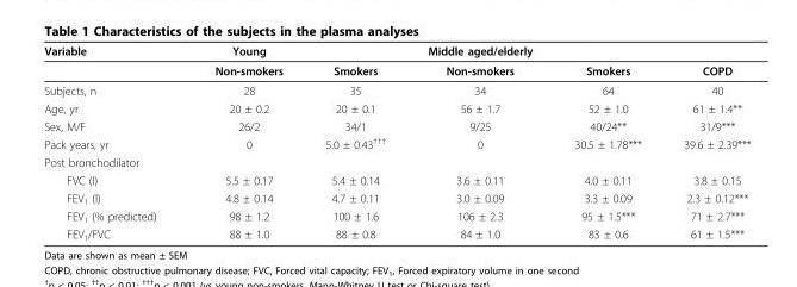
<table><thead><tr><td>Variable</td><td>Young</td><td></td><td>Middle aged/elderly</td><td></td><td></td></tr></thead><tbody><tr><td></td><td>Non-smokers</td><td>Smokers</td><td>Non-smokers</td><td>Smokers</td><td>COPD</td></tr><tr><td>Subjects, n</td><td>28</td><td>35</td><td>34</td><td>64</td><td>40</td></tr><tr><td>Age, yr</td><td>20 ± 0.2</td><td>20 ± 0.1</td><td>56 ± 1.7</td><td>52 ± 1.0</td><td>61 ± 1.4**</td></tr><tr><td>Sex, M/F</td><td>26/2</td><td>34/1</td><td>9/25</td><td>40/24**</td><td>31/9***</td></tr><tr><td>Pack years, yr</td><td>0</td><td>5.0 ± 0.43<sup>†††</sup></td><td>0</td><td>30.5 ± 1.78***</td><td>39.6 ± 2.39***</td></tr><tr><td colspan="6">Post bronchodilator</td></tr><tr><td>FVC (l)</td><td>5.5 ± 0.17</td><td>5.4 ± 0.14</td><td>3.6 ± 0.11</td><td>4.0 ± 0.11</td><td>3.8 ± 0.15</td></tr><tr><td>FEV<sub>1</sub> (l)</td><td>4.8 ± 0.14</td><td>4.7 ± 0.11</td><td>3.0 ± 0.09</td><td>3.3 ± 0.09</td><td>2.3 ± 0.12***</td></tr><tr><td>FEV<sub>1</sub> (% predicted)</td><td>98 ± 1.2</td><td>100 ± 1.6</td><td>106 ± 2.3</td><td>95 ± 1.5***</td><td>71 ± 2.7***</td></tr><tr><td>FEV<sub>1</sub>/FVC</td><td>88 ± 1.0</td><td>88 ± 0.8</td><td>84 ± 1.0</td><td>83 ± 0.6</td><td>61 ± 1.5***</td></tr></tbody></table>